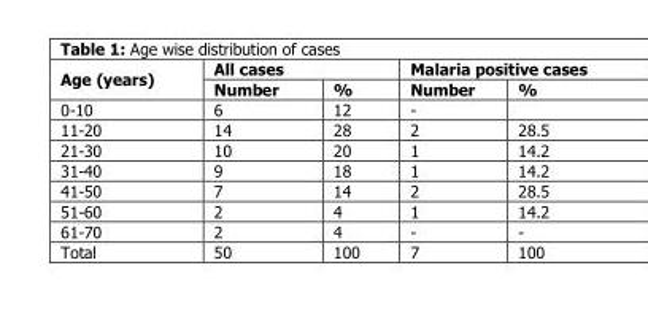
<table><thead><tr><td rowspan="2">Age (years)</td><td colspan="2">All cases</td><td colspan="2">Malaria positive cases</td></tr><tr><td>Number</td><td>%</td><td>Number</td><td>%</td></tr></thead><tbody><tr><td>0-10</td><td>6</td><td>12</td><td>-</td><td></td></tr><tr><td>11-20</td><td>14</td><td>28</td><td>2</td><td>28.5</td></tr><tr><td>21-30</td><td>10</td><td>20</td><td>1</td><td>14.2</td></tr><tr><td>31-40</td><td>9</td><td>18</td><td>1</td><td>14.2</td></tr><tr><td>41-50</td><td>7</td><td>14</td><td>2</td><td>28.5</td></tr><tr><td>51-60</td><td>2</td><td>4</td><td>1</td><td>14.2</td></tr><tr><td>61-70</td><td>2</td><td>4</td><td>-</td><td>-</td></tr><tr><td>Total</td><td>50</td><td>100</td><td>7</td><td>100</td></tr></tbody></table>